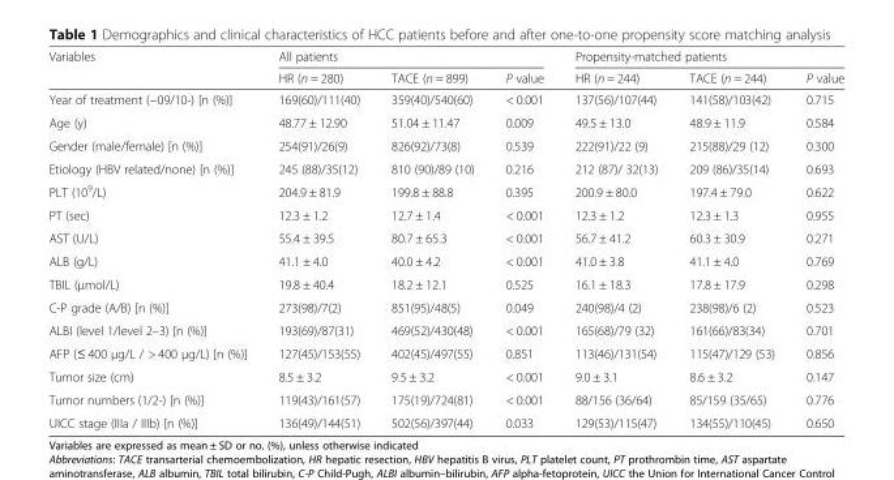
<table><thead><tr><td rowspan="2">Variables</td><td colspan="3">All patients</td><td colspan="3">Propensity-matched patients</td></tr><tr><td>HR (n = 280)</td><td>TACE (n = 899)</td><td>P value</td><td>HR (n = 244)</td><td>TACE (n = 244)</td><td>P value</td></tr></thead><tbody><tr><td>Year of treatment (−09/10-) [n (%)]</td><td>169(60)/111(40)</td><td>359(40)/540(60)</td><td>&lt; 0.001</td><td>137(56)/107(44)</td><td>141(58)/103(42)</td><td>0.715</td></tr><tr><td>Age (y)</td><td>48.77 ± 12.90</td><td>51.04 ± 11.47</td><td>0.009</td><td>49.5 ± 13.0</td><td>48.9 ± 11.9</td><td>0.584</td></tr><tr><td>Gender (male/female) [n (%)]</td><td>254(91)/26(9)</td><td>826(92)/73(8)</td><td>0.539</td><td>222(91)/22 (9)</td><td>215(88)/29 (12)</td><td>0.300</td></tr><tr><td>Etiology (HBV related/none) [n (%)]</td><td>245 (88)/35(12)</td><td>810 (90)/89 (10)</td><td>0.216</td><td>212 (87)/ 32(13)</td><td>209 (86)/35(14)</td><td>0.693</td></tr><tr><td>PLT (10<sup>9</sup>/L)</td><td>204.9 ± 81.9</td><td>199.8 ± 88.8</td><td>0.395</td><td>200.9 ± 80.0</td><td>197.4 ± 79.0</td><td>0.622</td></tr><tr><td>PT (sec)</td><td>12.3 ± 1.2</td><td>12.7 ± 1.4</td><td>&lt; 0.001</td><td>12.3 ± 1.2</td><td>12.3 ± 1.3</td><td>0.955</td></tr><tr><td>AST (U/L)</td><td>55.4 ± 39.5</td><td>80.7 ± 65.3</td><td>&lt; 0.001</td><td>56.7 ± 41.2</td><td>60.3 ± 30.9</td><td>0.271</td></tr><tr><td>ALB (g/L)</td><td>41.1 ± 4.0</td><td>40.0 ± 4.2</td><td>&lt; 0.001</td><td>41.0 ± 3.8</td><td>41.1 ± 4.0</td><td>0.769</td></tr><tr><td>TBIL (μmol/L)</td><td>19.8 ± 40.4</td><td>18.2 ± 12.1</td><td>0.525</td><td>16.1 ± 18.3</td><td>17.8 ± 17.9</td><td>0.298</td></tr><tr><td>C-P grade (A/B) [n (%)]</td><td>273(98)/7(2)</td><td>851(95)/48(5)</td><td>0.049</td><td>240(98)/4 (2)</td><td>238(98)/6 (2)</td><td>0.523</td></tr><tr><td>ALBI (level 1/level 2–3) [n (%)]</td><td>193(69)/87(31)</td><td>469(52)/430(48)</td><td>&lt; 0.001</td><td>165(68)/79 (32)</td><td>161(66)/83(34)</td><td>0.701</td></tr><tr><td>AFP (≤ 400 μg/L / &gt; 400 μg/L) [n (%)]</td><td>127(45)/153(55)</td><td>402(45)/497(55)</td><td>0.851</td><td>113(46)/131(54)</td><td>115(47)/129 (53)</td><td>0.856</td></tr><tr><td>Tumor size (cm)</td><td>8.5 ± 3.2</td><td>9.5 ± 3.2</td><td>&lt; 0.001</td><td>9.0 ± 3.1</td><td>8.6 ± 3.2</td><td>0.147</td></tr><tr><td>Tumor numbers (1/2-) [n (%)]</td><td>119(43)/161(57)</td><td>175(19)/724(81)</td><td>&lt; 0.001</td><td>88/156 (36/64)</td><td>85/159 (35/65)</td><td>0.776</td></tr><tr><td>UICC stage (IIIa / IIIb) [n (%)]</td><td>136(49)/144(51)</td><td>502(56)/397(44)</td><td>0.033</td><td>129(53)/115(47)</td><td>134(55)/110(45)</td><td>0.650</td></tr></tbody></table>